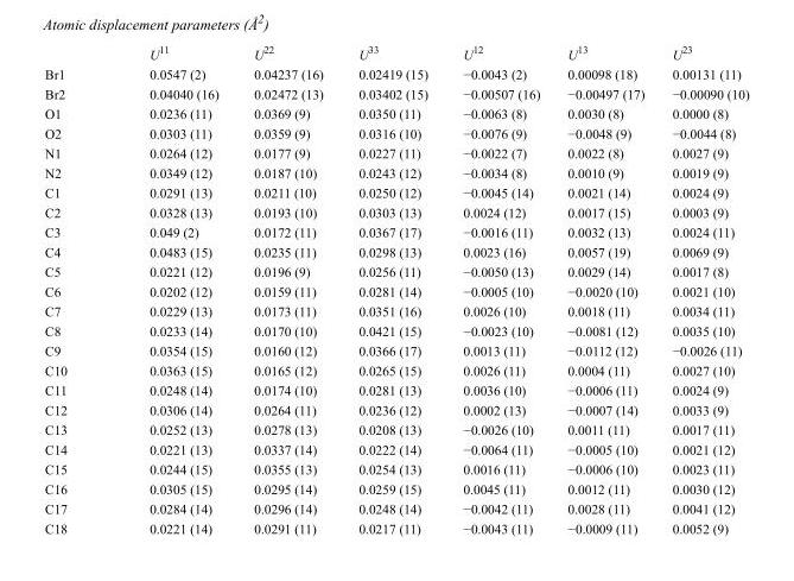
<table><thead><tr><td></td><td>U<sup>11</sup></td><td>U<sup>22</sup></td><td>U<sup>33</sup></td><td>U<sup>12</sup></td><td>U<sup>13</sup></td><td>U<sup>23</sup></td></tr></thead><tbody><tr><td>Br1</td><td>0.0547 (2)</td><td>0.04237 (16)</td><td>0.02419 (15)</td><td>−0.0043 (2)</td><td>0.00098 (18)</td><td>0.00131 (11)</td></tr><tr><td>Br2</td><td>0.04040 (16)</td><td>0.02472 (13)</td><td>0.03402 (15)</td><td>−0.00507 (16)</td><td>−0.00497 (17)</td><td>−0.00090 (10)</td></tr><tr><td>O1</td><td>0.0236 (11)</td><td>0.0369 (9)</td><td>0.0350 (11)</td><td>−0.0063 (8)</td><td>0.0030 (8)</td><td>0.0000 (8)</td></tr><tr><td>O2</td><td>0.0303 (11)</td><td>0.0359 (9)</td><td>0.0316 (10)</td><td>−0.0076 (9)</td><td>−0.0048 (9)</td><td>−0.0044 (8)</td></tr><tr><td>N1</td><td>0.0264 (12)</td><td>0.0177 (9)</td><td>0.0227 (11)</td><td>−0.0022 (7)</td><td>0.0022 (8)</td><td>0.0027 (9)</td></tr><tr><td>N2</td><td>0.0349 (12)</td><td>0.0187 (10)</td><td>0.0243 (12)</td><td>−0.0034 (8)</td><td>0.0010 (9)</td><td>0.0019 (9)</td></tr><tr><td>C1</td><td>0.0291 (13)</td><td>0.0211 (10)</td><td>0.0250 (12)</td><td>−0.0045 (14)</td><td>0.0021 (14)</td><td>0.0024 (9)</td></tr><tr><td>C2</td><td>0.0328 (13)</td><td>0.0193 (10)</td><td>0.0303 (13)</td><td>0.0024 (12)</td><td>0.0017 (15)</td><td>0.0003 (9)</td></tr><tr><td>C3</td><td>0.049 (2)</td><td>0.0172 (11)</td><td>0.0367 (17)</td><td>−0.0016 (11)</td><td>0.0032 (13)</td><td>0.0024 (11)</td></tr><tr><td>C4</td><td>0.0483 (15)</td><td>0.0235 (11)</td><td>0.0298 (13)</td><td>0.0023 (16)</td><td>0.0057 (19)</td><td>0.0069 (9)</td></tr><tr><td>C5</td><td>0.0221 (12)</td><td>0.0196 (9)</td><td>0.0256 (11)</td><td>−0.0050 (13)</td><td>0.0029 (14)</td><td>0.0017 (8)</td></tr><tr><td>C6</td><td>0.0202 (12)</td><td>0.0159 (11)</td><td>0.0281 (14)</td><td>−0.0005 (10)</td><td>−0.0020 (10)</td><td>0.0021 (10)</td></tr><tr><td>C7</td><td>0.0229 (13)</td><td>0.0173 (11)</td><td>0.0351 (16)</td><td>0.0026 (10)</td><td>0.0018 (11)</td><td>0.0034 (11)</td></tr><tr><td>C8</td><td>0.0233 (14)</td><td>0.0170 (10)</td><td>0.0421 (15)</td><td>−0.0023 (10)</td><td>−0.0081 (12)</td><td>0.0035 (10)</td></tr><tr><td>C9</td><td>0.0354 (15)</td><td>0.0160 (12)</td><td>0.0366 (17)</td><td>0.0013 (11)</td><td>−0.0112 (12)</td><td>−0.0026 (11)</td></tr><tr><td>C10</td><td>0.0363 (15)</td><td>0.0165 (12)</td><td>0.0265 (15)</td><td>0.0026 (11)</td><td>0.0004 (11)</td><td>0.0027 (10)</td></tr><tr><td>C11</td><td>0.0248 (14)</td><td>0.0174 (10)</td><td>0.0281 (13)</td><td>0.0036 (10)</td><td>−0.0006 (11)</td><td>0.0024 (9)</td></tr><tr><td>C12</td><td>0.0306 (14)</td><td>0.0264 (11)</td><td>0.0236 (12)</td><td>0.0002 (13)</td><td>−0.0007 (14)</td><td>0.0033 (9)</td></tr><tr><td>C13</td><td>0.0252 (13)</td><td>0.0278 (13)</td><td>0.0208 (13)</td><td>−0.0026 (10)</td><td>0.0011 (11)</td><td>0.0017 (11)</td></tr><tr><td>C14</td><td>0.0221 (13)</td><td>0.0337 (14)</td><td>0.0222 (14)</td><td>−0.0064 (11)</td><td>−0.0005 (10)</td><td>0.0021 (12)</td></tr><tr><td>C15</td><td>0.0244 (15)</td><td>0.0355 (13)</td><td>0.0254 (13)</td><td>0.0016 (11)</td><td>−0.0006 (10)</td><td>0.0023 (11)</td></tr><tr><td>C16</td><td>0.0305 (15)</td><td>0.0295 (14)</td><td>0.0259 (15)</td><td>0.0045 (11)</td><td>0.0012 (11)</td><td>0.0030 (12)</td></tr><tr><td>C17</td><td>0.0284 (14)</td><td>0.0296 (14)</td><td>0.0248 (14)</td><td>−0.0042 (11)</td><td>0.0028 (11)</td><td>0.0041 (12)</td></tr><tr><td>C18</td><td>0.0221 (14)</td><td>0.0291 (11)</td><td>0.0217 (11)</td><td>−0.0043 (11)</td><td>−0.0009 (11)</td><td>0.0052 (9)</td></tr></tbody></table>